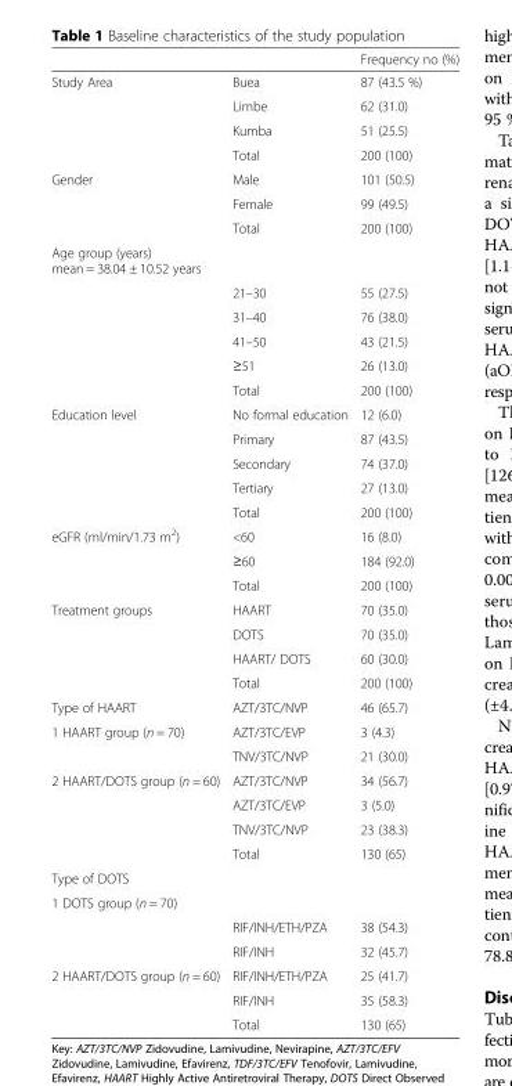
<table><thead><tr><td></td><td></td><td>Frequency no (%)</td></tr></thead><tbody><tr><td rowspan="4">Study Area</td><td>Buea</td><td>87 (43.5 %)</td></tr><tr><td>Limbe</td><td>62 (31.0)</td></tr><tr><td>Kumba</td><td>51 (25.5)</td></tr><tr><td>Total</td><td>200 (100)</td></tr><tr><td rowspan="3">Gender</td><td>Male</td><td>101 (50.5)</td></tr><tr><td>Female</td><td>99 (49.5)</td></tr><tr><td>Total</td><td>200 (100)</td></tr><tr><td colspan="3">Age group (years) mean = 38.04 ± 10.52 years</td></tr><tr><td></td><td>21–30</td><td>55 (27.5)</td></tr><tr><td></td><td>31–40</td><td>76 (38.0)</td></tr><tr><td></td><td>41–50</td><td>43 (21.5)</td></tr><tr><td></td><td>≥51</td><td>26 (13.0)</td></tr><tr><td></td><td>Total</td><td>200 (100)</td></tr><tr><td rowspan="5">Education level</td><td>No formal education</td><td>12 (6.0)</td></tr><tr><td>Primary</td><td>87 (43.5)</td></tr><tr><td>Secondary</td><td>74 (37.0)</td></tr><tr><td>Tertiary</td><td>27 (13.0)</td></tr><tr><td>Total</td><td>200 (100)</td></tr><tr><td rowspan="3">eGFR (ml/min/1.73 m<sup>2</sup>)</td><td>&lt;60</td><td>16 (8.0)</td></tr><tr><td>≥60</td><td>184 (92.0)</td></tr><tr><td>Total</td><td>200 (100)</td></tr><tr><td rowspan="4">Treatment groups</td><td>HAART</td><td>70 (35.0)</td></tr><tr><td>DOTS</td><td>70 (35.0)</td></tr><tr><td>HAART/ DOTS</td><td>60 (30.0)</td></tr><tr><td>Total</td><td>200 (100)</td></tr><tr><td>Type of HAART</td><td>AZT/3TC/NVP</td><td>46 (65.7)</td></tr><tr><td rowspan="2">1 HAART group (n = 70)</td><td>AZT/3TC/EVP</td><td>3 (4.3)</td></tr><tr><td>TNV/3TC/NVP</td><td>21 (30.0)</td></tr><tr><td rowspan="4">2 HAART/DOTS group (n = 60)</td><td>AZT/3TC/NVP</td><td>34 (56.7)</td></tr><tr><td>AZT/3TC/EVP</td><td>3 (5.0)</td></tr><tr><td>TNV/3TC/NVP</td><td>23 (38.3)</td></tr><tr><td>Total</td><td>130 (65)</td></tr><tr><td colspan="3">Type of DOTS</td></tr><tr><td colspan="3">1 DOTS group (n = 70)</td></tr><tr><td></td><td>RIF/INH/ETH/PZA</td><td>38 (54.3)</td></tr><tr><td></td><td>RIF/INH</td><td>32 (45.7)</td></tr><tr><td rowspan="3">2 HAART/DOTS group (n = 60)</td><td>RIF/INH/ETH/PZA</td><td>25 (41.7)</td></tr><tr><td>RIF/INH</td><td>35 (58.3)</td></tr><tr><td>Total</td><td>130 (65)</td></tr></tbody></table>